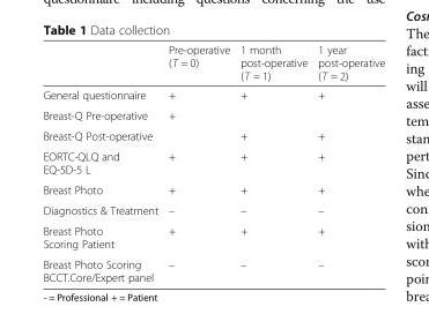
<table><thead><tr><td></td><td>Pre-operative (T = 0)</td><td>1 month post-operative (T = 1)</td><td>1 year post-operative (T = 2)</td></tr></thead><tbody><tr><td>General questionnaire</td><td>+</td><td>+</td><td>+</td></tr><tr><td>Breast-Q Pre-operative</td><td>+</td><td></td><td></td></tr><tr><td>Breast-Q Post-operative</td><td></td><td>+</td><td>+</td></tr><tr><td>EORTC-QLQ and EQ-5D-5 L</td><td>+</td><td>+</td><td>+</td></tr><tr><td>Breast Photo</td><td>+</td><td>+</td><td>+</td></tr><tr><td>Diagnostics &amp; Treatment</td><td>–</td><td>–</td><td>–</td></tr><tr><td>Breast Photo Scoring Patient</td><td>+</td><td>+</td><td>+</td></tr><tr><td>Breast Photo Scoring BCCT.Core/Expert panel</td><td>–</td><td>–</td><td>–</td></tr></tbody></table>